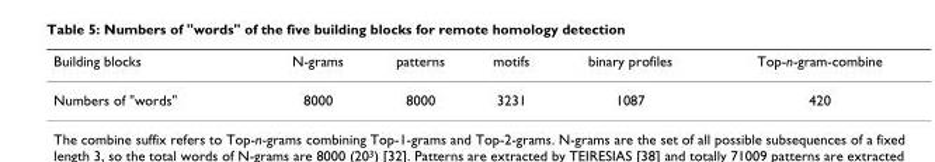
<table><thead><tr><td>Building blocks</td><td>N-grams</td><td>patterns</td><td>motifs</td><td>binary profiles</td><td>Top-n-gram-combine</td></tr></thead><tbody><tr><td>Numbers of &quot;words&quot;</td><td>8000</td><td>8000</td><td>3231</td><td>1087</td><td>420</td></tr></tbody></table>